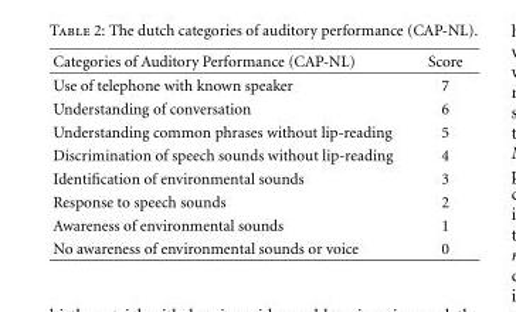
<table><thead><tr><td>Categories of Auditory Performance (CAP-NL)</td><td>Score</td></tr></thead><tbody><tr><td>Use of telephone with known speaker</td><td>7</td></tr><tr><td>Understanding of conversation</td><td>6</td></tr><tr><td>Understanding common phrases without lip-reading</td><td>5</td></tr><tr><td>Discrimination of speech sounds without lip-reading</td><td>4</td></tr><tr><td>Identification of environmental sounds</td><td>3</td></tr><tr><td>Response to speech sounds</td><td>2</td></tr><tr><td>Awareness of environmental sounds</td><td>1</td></tr><tr><td>No awareness of environmental sounds or voice</td><td>0</td></tr></tbody></table>